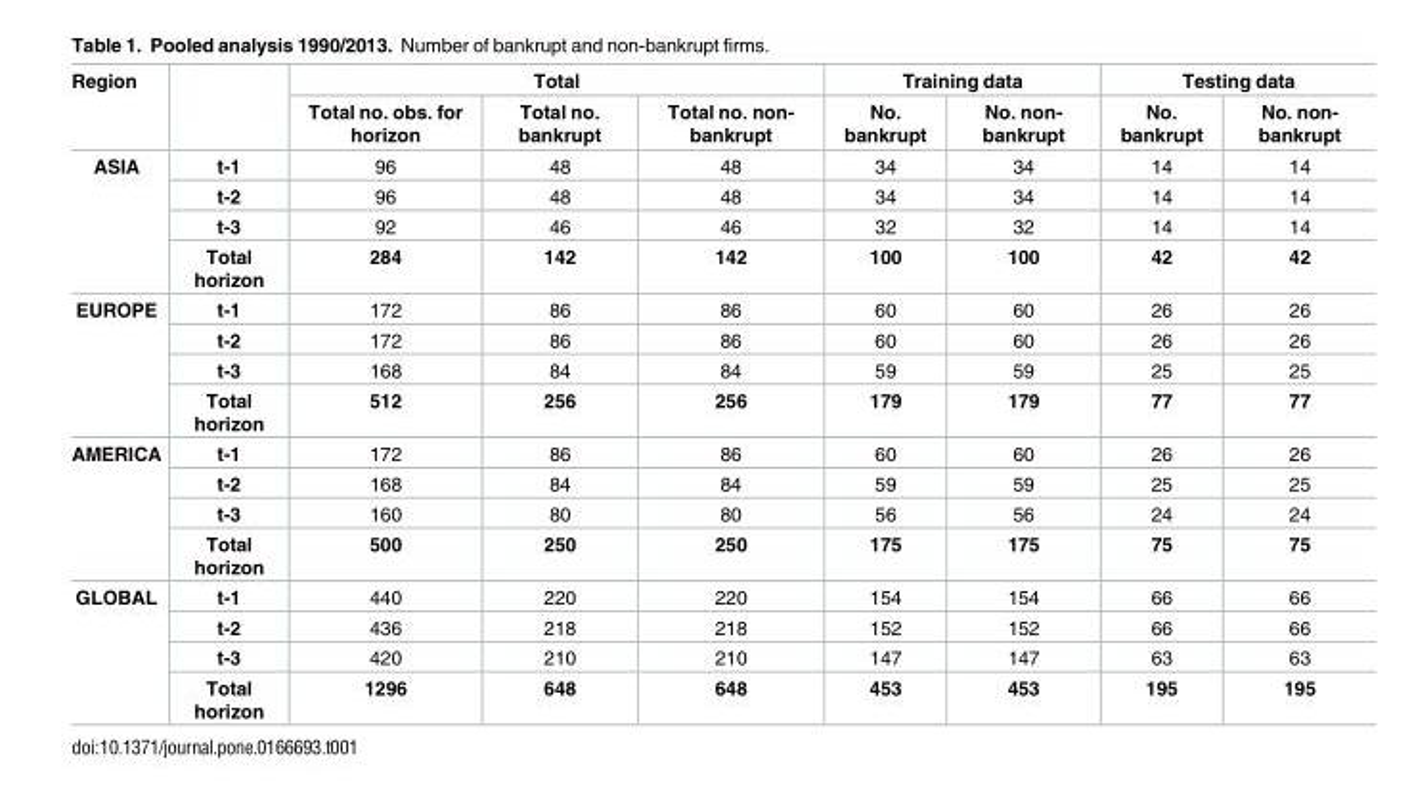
<table><thead><tr><td rowspan="2">Region</td><td rowspan="2"></td><td colspan="3">Total</td><td colspan="2">Training data</td><td colspan="2">Testing data</td></tr><tr><td>Total no. obs. for horizon</td><td>Total no. bankrupt</td><td>Total no. non- bankrupt</td><td>No. bankrupt</td><td>No. non- bankrupt</td><td>No. bankrupt</td><td>No. non- bankrupt</td></tr></thead><tbody><tr><td rowspan="4">ASIA</td><td>t-1</td><td>96</td><td>48</td><td>48</td><td>34</td><td>34</td><td>14</td><td>14</td></tr><tr><td>t-2</td><td>96</td><td>48</td><td>48</td><td>34</td><td>34</td><td>14</td><td>14</td></tr><tr><td>t-3</td><td>92</td><td>46</td><td>46</td><td>32</td><td>32</td><td>14</td><td>14</td></tr><tr><td>Total horizon</td><td>284</td><td>142</td><td>142</td><td>100</td><td>100</td><td>42</td><td>42</td></tr><tr><td rowspan="4">EUROPE</td><td>t-1</td><td>172</td><td>86</td><td>86</td><td>60</td><td>60</td><td>26</td><td>26</td></tr><tr><td>t-2</td><td>172</td><td>86</td><td>86</td><td>60</td><td>60</td><td>26</td><td>26</td></tr><tr><td>t-3</td><td>168</td><td>84</td><td>84</td><td>59</td><td>59</td><td>25</td><td>25</td></tr><tr><td>Total horizon</td><td>512</td><td>256</td><td>256</td><td>179</td><td>179</td><td>77</td><td>77</td></tr><tr><td rowspan="4">AMERICA</td><td>t-1</td><td>172</td><td>86</td><td>86</td><td>60</td><td>60</td><td>26</td><td>26</td></tr><tr><td>t-2</td><td>168</td><td>84</td><td>84</td><td>59</td><td>59</td><td>25</td><td>25</td></tr><tr><td>t-3</td><td>160</td><td>80</td><td>80</td><td>56</td><td>56</td><td>24</td><td>24</td></tr><tr><td>Total horizon</td><td>500</td><td>250</td><td>250</td><td>175</td><td>175</td><td>75</td><td>75</td></tr><tr><td rowspan="4">GLOBAL</td><td>t-1</td><td>440</td><td>220</td><td>220</td><td>154</td><td>154</td><td>66</td><td>66</td></tr><tr><td>t-2</td><td>436</td><td>218</td><td>218</td><td>152</td><td>152</td><td>66</td><td>66</td></tr><tr><td>t-3</td><td>420</td><td>210</td><td>210</td><td>147</td><td>147</td><td>63</td><td>63</td></tr><tr><td>Total horizon</td><td>1296</td><td>648</td><td>648</td><td>453</td><td>453</td><td>195</td><td>195</td></tr></tbody></table>